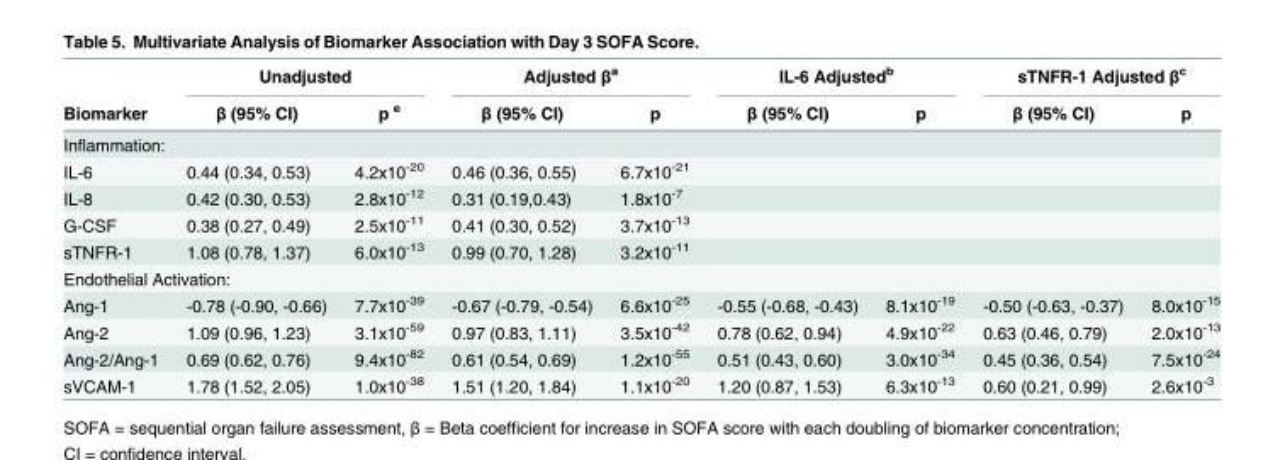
<table><thead><tr><td rowspan="2">Biomarker</td><td colspan="2">Unadjusted</td><td colspan="2">Adjusted β<sup>a</sup></td><td colspan="2">IL-6 Adjusted<sup>b</sup></td><td colspan="2">sTNFR-1 Adjusted β<sup>c</sup></td></tr><tr><td>β (95% CI)</td><td>p <sup>e</sup></td><td>β (95% CI)</td><td>p</td><td>β (95% CI)</td><td>p</td><td>β (95% CI)</td><td>p</td></tr></thead><tbody><tr><td colspan="9">Inflammation:</td></tr><tr><td>IL-6</td><td>0.44 (0.34, 0.53)</td><td>4.2x10<sup>-20</sup></td><td>0.46 (0.36, 0.55)</td><td>6.7x10<sup>-21</sup></td><td></td><td></td><td></td><td></td></tr><tr><td>IL-8</td><td>0.42 (0.30, 0.53)</td><td>2.8x10<sup>-12</sup></td><td>0.31 (0.19,0.43)</td><td>1.8x10<sup>-7</sup></td><td></td><td></td><td></td><td></td></tr><tr><td>G-CSF</td><td>0.38 (0.27, 0.49)</td><td>2.5x10<sup>-11</sup></td><td>0.41 (0.30, 0.52)</td><td>3.7x10<sup>-13</sup></td><td></td><td></td><td></td><td></td></tr><tr><td>sTNFR-1</td><td>1.08 (0.78, 1.37)</td><td>6.0x10<sup>-13</sup></td><td>0.99 (0.70, 1.28)</td><td>3.2x10<sup>-11</sup></td><td></td><td></td><td></td><td></td></tr><tr><td colspan="9">Endothelial Activation:</td></tr><tr><td>Ang-1</td><td>-0.78 (-0.90, -0.66)</td><td>7.7x10<sup>-39</sup></td><td>-0.67 (-0.79, -0.54)</td><td>6.6x10<sup>-25</sup></td><td>-0.55 (-0.68, -0.43)</td><td>8.1x10<sup>-19</sup></td><td>-0.50 (-0.63, -0.37)</td><td>8.0x10<sup>-15</sup></td></tr><tr><td>Ang-2</td><td>1.09 (0.96, 1.23)</td><td>3.1x10<sup>-59</sup></td><td>0.97 (0.83, 1.11)</td><td>3.5x10<sup>-42</sup></td><td>0.78 (0.62, 0.94)</td><td>4.9x10<sup>-22</sup></td><td>0.63 (0.46, 0.79)</td><td>2.0x10<sup>-13</sup></td></tr><tr><td>Ang-2/Ang-1</td><td>0.69 (0.62, 0.76)</td><td>9.4x10<sup>-82</sup></td><td>0.61 (0.54, 0.69)</td><td>1.2x10<sup>-55</sup></td><td>0.51 (0.43, 0.60)</td><td>3.0x10<sup>-34</sup></td><td>0.45 (0.36, 0.54)</td><td>7.5x10<sup>-24</sup></td></tr><tr><td>sVCAM-1</td><td>1.78 (1.52, 2.05)</td><td>1.0x10<sup>-38</sup></td><td>1.51 (1.20, 1.84)</td><td>1.1x10<sup>-20</sup></td><td>1.20 (0.87, 1.53)</td><td>6.3x10<sup>-13</sup></td><td>0.60 (0.21, 0.99)</td><td>2.6x10<sup>-3</sup></td></tr></tbody></table>